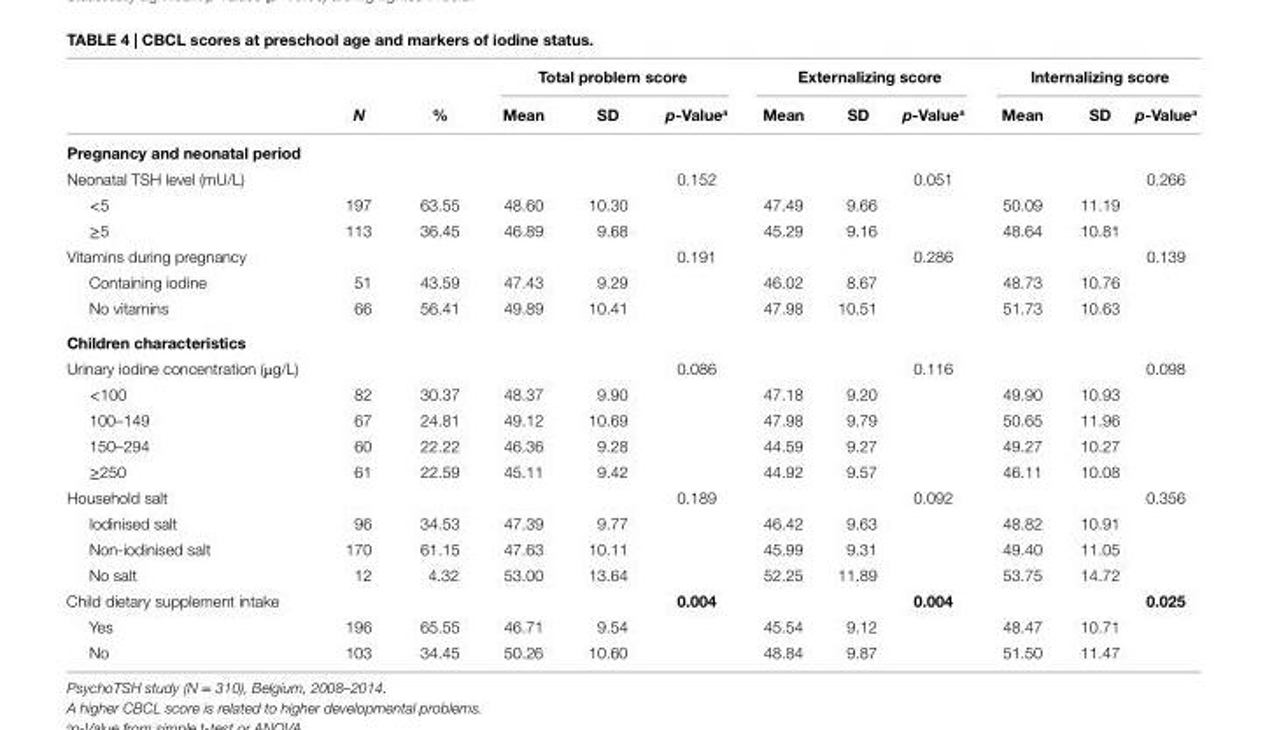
<table><thead><tr><td rowspan="2"></td><td rowspan="2">N</td><td rowspan="2">%</td><td colspan="3">Total problem score</td><td colspan="3">externalizing score</td><td colspan="3">internalizing score</td></tr><tr><td>Mean</td><td>sD</td><td>p-Value<sup>a</sup></td><td>Mean</td><td>sD</td><td>p-Value<sup>a</sup></td><td>Mean</td><td>sD</td><td>p-Value<sup>a</sup></td></tr></thead><tbody><tr><td colspan="12">Pregnancy and neonatal period</td></tr><tr><td>Neonatal TSH level (mU/L)</td><td></td><td></td><td></td><td></td><td>0.152</td><td></td><td></td><td>0.051</td><td></td><td></td><td>0.266</td></tr><tr><td>&lt;5</td><td>197</td><td>63.55</td><td>48.60</td><td>10.30</td><td></td><td>47.49</td><td>9.66</td><td></td><td>50.09</td><td>11.19</td><td></td></tr><tr><td>≥5</td><td>113</td><td>36.45</td><td>46.89</td><td>9.68</td><td></td><td>45.29</td><td>9.16</td><td></td><td>48.64</td><td>10.81</td><td></td></tr><tr><td>Vitamins during pregnancy</td><td></td><td></td><td></td><td></td><td>0.191</td><td></td><td></td><td>0.286</td><td></td><td></td><td>0.139</td></tr><tr><td>Containing iodine</td><td>51</td><td>43.59</td><td>47.43</td><td>9.29</td><td></td><td>46.02</td><td>8.67</td><td></td><td>48.73</td><td>10.76</td><td></td></tr><tr><td>No vitamins</td><td>66</td><td>56.41</td><td>49.89</td><td>10.41</td><td></td><td>47.98</td><td>10.51</td><td></td><td>51.73</td><td>10.63</td><td></td></tr><tr><td colspan="12">children characteristics</td></tr><tr><td>Urinary iodine concentration (μg/L)</td><td></td><td></td><td></td><td></td><td>0.086</td><td></td><td></td><td>0.116</td><td></td><td></td><td>0.098</td></tr><tr><td>&lt;100</td><td>82</td><td>30.37</td><td>48.37</td><td>9.90</td><td></td><td>47.18</td><td>9.20</td><td></td><td>49.90</td><td>10.93</td><td></td></tr><tr><td>100–149</td><td>67</td><td>24.81</td><td>49.12</td><td>10.69</td><td></td><td>47.98</td><td>9.79</td><td></td><td>50.65</td><td>11.96</td><td></td></tr><tr><td>150–294</td><td>60</td><td>22.22</td><td>46.36</td><td>9.28</td><td></td><td>44.59</td><td>9.27</td><td></td><td>49.27</td><td>10.27</td><td></td></tr><tr><td>≥250</td><td>61</td><td>22.59</td><td>45.11</td><td>9.42</td><td></td><td>44.92</td><td>9.57</td><td></td><td>46.11</td><td>10.08</td><td></td></tr><tr><td>Household salt</td><td></td><td></td><td></td><td></td><td>0.189</td><td></td><td></td><td>0.092</td><td></td><td></td><td>0.356</td></tr><tr><td>Iodinised salt</td><td>96</td><td>34.53</td><td>47.39</td><td>9.77</td><td></td><td>46.42</td><td>9.63</td><td></td><td>48.82</td><td>10.91</td><td></td></tr><tr><td>Non-iodinised salt</td><td>170</td><td>61.15</td><td>47.63</td><td>10.11</td><td></td><td>45.99</td><td>9.31</td><td></td><td>49.40</td><td>11.05</td><td></td></tr><tr><td>No salt</td><td>12</td><td>4.32</td><td>53.00</td><td>13.64</td><td></td><td>52.25</td><td>11.89</td><td></td><td>53.75</td><td>14.72</td><td></td></tr><tr><td>Child dietary supplement intake</td><td></td><td></td><td></td><td></td><td>0.004</td><td></td><td></td><td>0.004</td><td></td><td></td><td>0.025</td></tr><tr><td>Yes</td><td>196</td><td>65.55</td><td>46.71</td><td>9.54</td><td></td><td>45.54</td><td>9.12</td><td></td><td>48.47</td><td>10.71</td><td></td></tr><tr><td>No</td><td>103</td><td>34.45</td><td>50.26</td><td>10.60</td><td></td><td>48.84</td><td>9.87</td><td></td><td>51.50</td><td>11.47</td><td></td></tr></tbody></table>